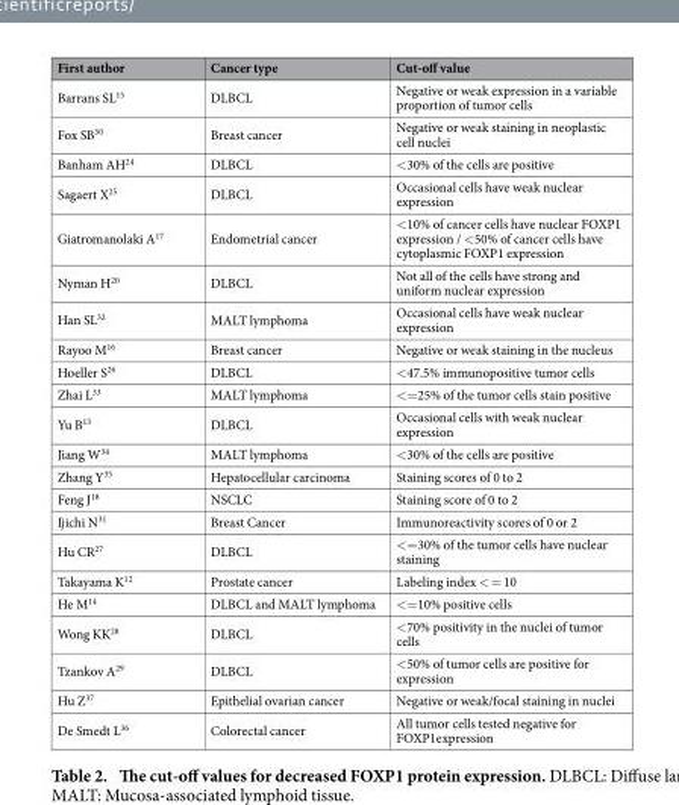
<table><thead><tr><td>First author</td><td>Cancer type</td><td>Cut-off value</td></tr></thead><tbody><tr><td>Barrans SL<sup>15</sup></td><td>DLBCL</td><td>Negative or weak expression in a variable proportion of tumor cells</td></tr><tr><td>Fox SB<sup>30</sup></td><td>Breast cancer</td><td>Negative or weak staining in neoplastic cell nuclei</td></tr><tr><td>Banham AH<sup>24</sup></td><td>DLBCL</td><td>&lt; 30% of the cells are positive</td></tr><tr><td>Sagaert X<sup>25</sup></td><td>DLBCL</td><td>Occasional cells have weak nuclear expression</td></tr><tr><td>Giatromanolaki A<sup>17</sup></td><td>Endometrial cancer</td><td>&lt; 10% of cancer cells have nuclear FOXP1 expression / &lt; 50% of cancer cells have cytoplasmic FOXP1 expression</td></tr><tr><td>Nyman H<sup>20</sup></td><td>DLBCL</td><td>Not all of the cells have strong and uniform nuclear expression</td></tr><tr><td>Han SL<sup>32</sup></td><td>MALT lymphoma</td><td>Occasional cells have weak nuclear expression</td></tr><tr><td>Rayoo M<sup>16</sup></td><td>Breast cancer</td><td>Negative or weak staining in the nucleus</td></tr><tr><td>Hoeller S<sup>26</sup></td><td>DLBCL</td><td>&lt; 47.5% immunopositive tumor cells</td></tr><tr><td>Zhai L<sup>33</sup></td><td>MALT lymphoma</td><td>&lt;=25% of the tumor cells stain positive</td></tr><tr><td>Yu B<sup>13</sup></td><td>DLBCL</td><td>Occasional cells with weak nuclear expression</td></tr><tr><td>Jiang W<sup>34</sup></td><td>MALT lymphoma</td><td>&lt; 30% of the cells are positive</td></tr><tr><td>Zhang Y<sup>35</sup></td><td>Hepatocellular carcinoma</td><td>Staining scores of 0 to 2</td></tr><tr><td>Feng J<sup>18</sup></td><td>NSCLC</td><td>Staining score of 0 to 2</td></tr><tr><td>Ijichi N<sup>31</sup></td><td>Breast Cancer</td><td>Immunoreactivity scores of 0 or 2</td></tr><tr><td>Hu CR<sup>27</sup></td><td>DLBCL</td><td>&lt;=30% of the tumor cells have nuclear staining</td></tr><tr><td>Takayama K<sup>12</sup></td><td>Prostate cancer</td><td>Labeling index &lt; = 10</td></tr><tr><td>He M<sup>14</sup></td><td>DLBCL and MALT lymphoma</td><td>&lt;=10% positive cells</td></tr><tr><td>Wong KK<sup>28</sup></td><td>DLBCL</td><td>&lt; 70% positivity in the nuclei of tumor cells</td></tr><tr><td>Tzankov A<sup>29</sup></td><td>DLBCL</td><td>&lt; 50% of tumor cells are positive for expression</td></tr><tr><td>Hu Z<sup>37</sup></td><td>Epithelial ovarian cancer</td><td>Negative or weak/focal staining in nuclei</td></tr><tr><td>De Smedt L<sup>36</sup></td><td>Colorectal cancer</td><td>All tumor cells tested negative for FOXP1expression</td></tr></tbody></table>